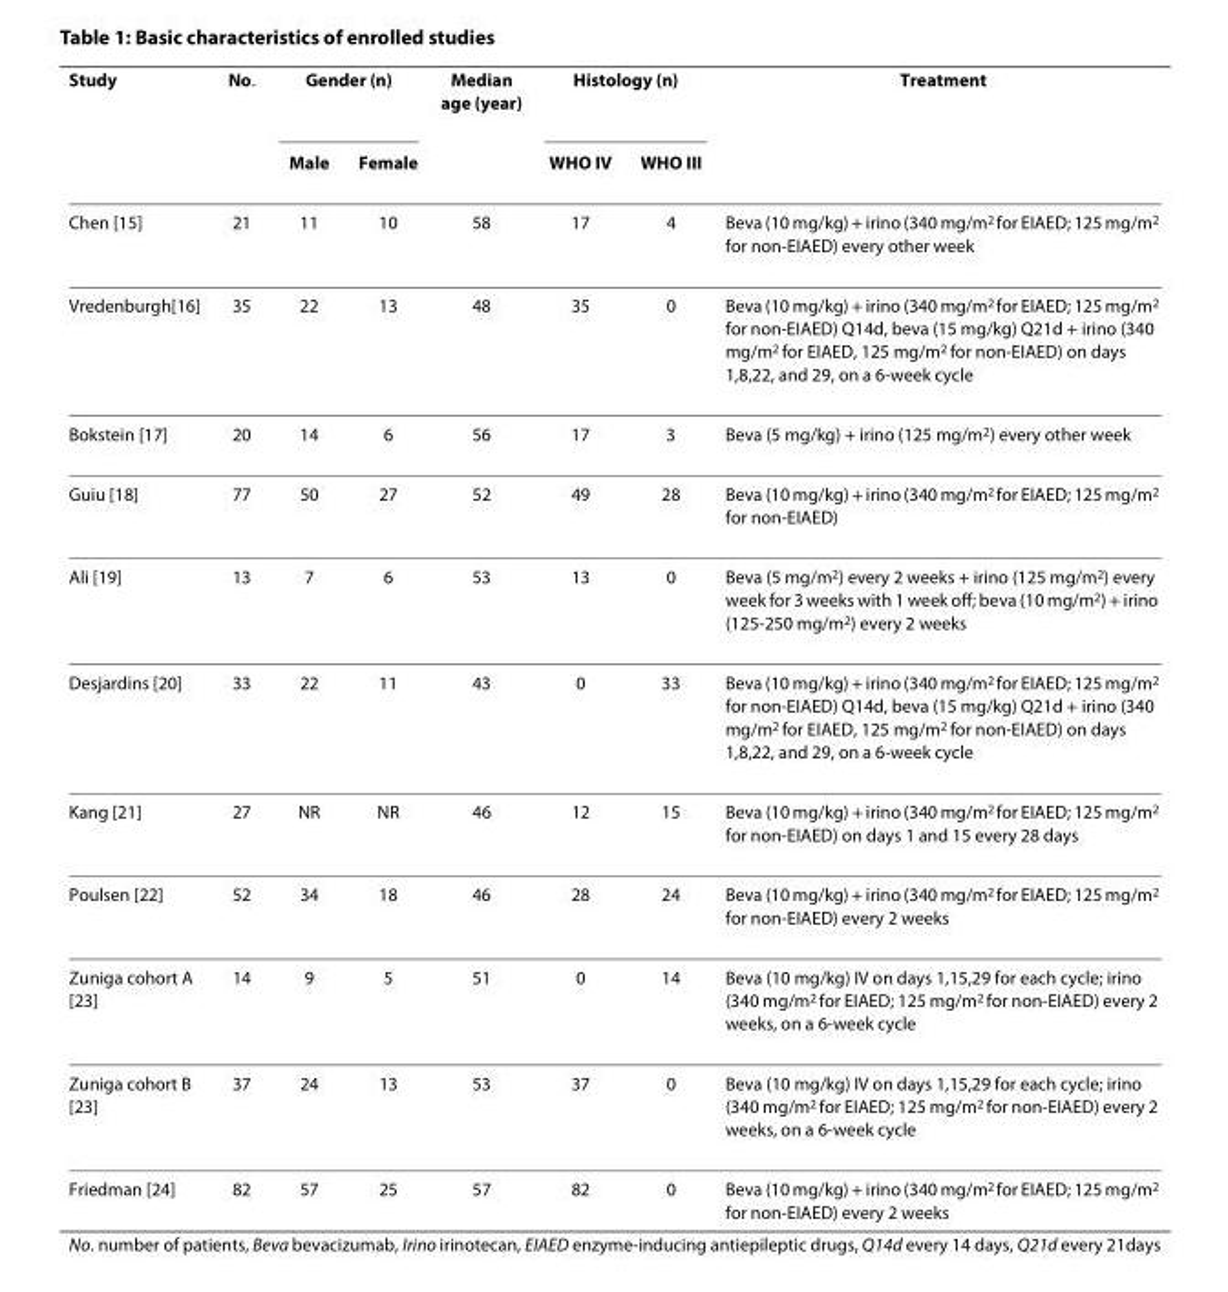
<table><thead><tr><td rowspan="2">Study</td><td rowspan="2">No.</td><td colspan="2">Gender (n)</td><td rowspan="2">Median age (year)</td><td colspan="2">Histology (n)</td><td rowspan="2">Treatment</td></tr><tr><td>Male</td><td>Female</td><td>WHO IV</td><td>WHO III</td></tr></thead><tbody><tr><td>Chen [15]</td><td>21</td><td>11</td><td>10</td><td>58</td><td>17</td><td>4</td><td>Beva (10 mg/kg) + irino (340 mg/m2 for EIAED; 125 mg/m2 for non-EIAED) every other week</td></tr><tr><td>Vredenburgh[16]</td><td>35</td><td>22</td><td>13</td><td>48</td><td>35</td><td>0</td><td>Beva (10 mg/kg) + irino (340 mg/m2 for EIAED; 125 mg/m2 for non-EIAED) Q14d, beva (15 mg/kg) Q21d + irino (340 mg/m2 for EIAED, 125 mg/m2 for non-EIAED) on days 1,8,22, and 29, on a 6-week cycle</td></tr><tr><td>Bokstein [17]</td><td>20</td><td>14</td><td>6</td><td>56</td><td>17</td><td>3</td><td>Beva (5 mg/kg) + irino (125 mg/m2) every other week</td></tr><tr><td>Guiu [18]</td><td>77</td><td>50</td><td>27</td><td>52</td><td>49</td><td>28</td><td>Beva (10 mg/kg) + irino (340 mg/m2 for EIAED; 125 mg/m2 for non-EIAED)</td></tr><tr><td>Ali [19]</td><td>13</td><td>7</td><td>6</td><td>53</td><td>13</td><td>0</td><td>Beva (5 mg/m2) every 2 weeks + irino (125 mg/m2) every week for 3 weeks with 1 week off; beva (10 mg/m2) + irino (125-250 mg/m2) every 2 weeks</td></tr><tr><td>Desjardins [20]</td><td>33</td><td>22</td><td>11</td><td>43</td><td>0</td><td>33</td><td>Beva (10 mg/kg) + irino (340 mg/m2 for EIAED; 125 mg/m2 for non-EIAED) Q14d, beva (15 mg/kg) Q21d + irino (340 mg/m2 for EIAED, 125 mg/m2 for non-EIAED) on days 1,8,22, and 29, on a 6-week cycle</td></tr><tr><td>Kang [21]</td><td>27</td><td>NR</td><td>NR</td><td>46</td><td>12</td><td>15</td><td>Beva (10 mg/kg) + irino (340 mg/m2 for EIAED; 125 mg/m2 for non-EIAED) on days 1 and 15 every 28 days</td></tr><tr><td>Poulsen [22]</td><td>52</td><td>34</td><td>18</td><td>46</td><td>28</td><td>24</td><td>Beva (10 mg/kg) + irino (340 mg/m2 for EIAED; 125 mg/m2 for non-EIAED) every 2 weeks</td></tr><tr><td>Zuniga cohort A [23]</td><td>14</td><td>9</td><td>5</td><td>51</td><td>0</td><td>14</td><td>Beva (10 mg/kg) IV on days 1,15,29 for each cycle; irino (340 mg/m2 for EIAED; 125 mg/m2 for non-EIAED) every 2 weeks, on a 6-week cycle</td></tr><tr><td>Zuniga cohort B [23]</td><td>37</td><td>24</td><td>13</td><td>53</td><td>37</td><td>0</td><td>Beva (10 mg/kg) IV on days 1,15,29 for each cycle; irino (340 mg/m2 for EIAED; 125 mg/m2 for non-EIAED) every 2 weeks, on a 6-week cycle</td></tr><tr><td>Friedman [24]</td><td>82</td><td>57</td><td>25</td><td>57</td><td>82</td><td>0</td><td>Beva (10 mg/kg) + irino (340 mg/m2 for EIAED; 125 mg/m2 for non-EIAED) every 2 weeks</td></tr></tbody></table>